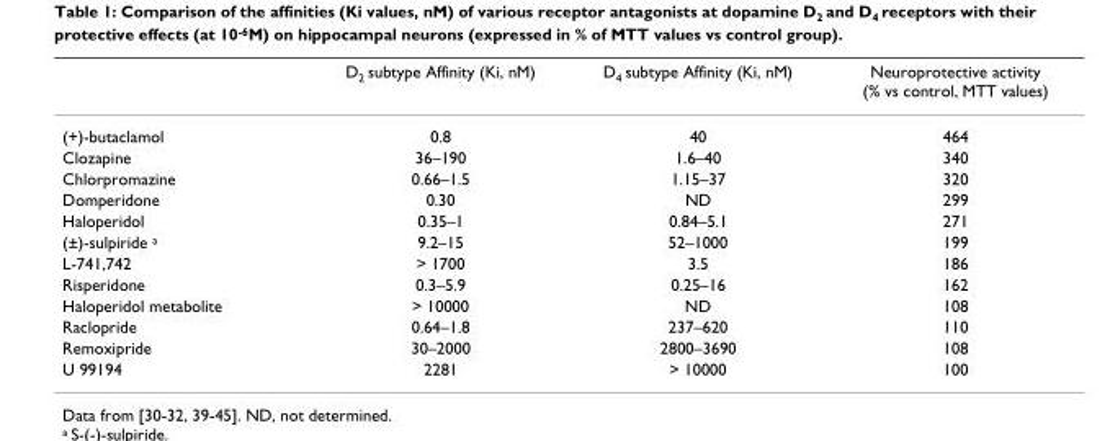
<table><thead><tr><td></td><td>D2 subtype Affinity (Ki, nM)</td><td>D4 subtype Affinity (Ki, nM)</td><td>Neuroprotective activity (% vs control, MTT values)</td></tr></thead><tbody><tr><td>(+)-butaclamol</td><td>0.8</td><td>40</td><td>464</td></tr><tr><td>Clozapine</td><td>36–190</td><td>1.6–40</td><td>340</td></tr><tr><td>Chlorpromazine</td><td>0.66–1.5</td><td>1.15–37</td><td>320</td></tr><tr><td>Domperidone</td><td>0.30</td><td>ND</td><td>299</td></tr><tr><td>Haloperidol</td><td>0.35–1</td><td>0.84–5.1</td><td>271</td></tr><tr><td>(±)-sulpiride a</td><td>9.2–15</td><td>52–1000</td><td>199</td></tr><tr><td>L-741,742</td><td>&gt; 1700</td><td>3.5</td><td>186</td></tr><tr><td>Risperidone</td><td>0.3–5.9</td><td>0.25–16</td><td>162</td></tr><tr><td>Haloperidol metabolite</td><td>&gt; 10000</td><td>ND</td><td>108</td></tr><tr><td>Raclopride</td><td>0.64–1.8</td><td>237–620</td><td>110</td></tr><tr><td>Remoxipride</td><td>30–2000</td><td>2800–3690</td><td>108</td></tr><tr><td>U 99194</td><td>2281</td><td>&gt; 10000</td><td>100</td></tr></tbody></table>